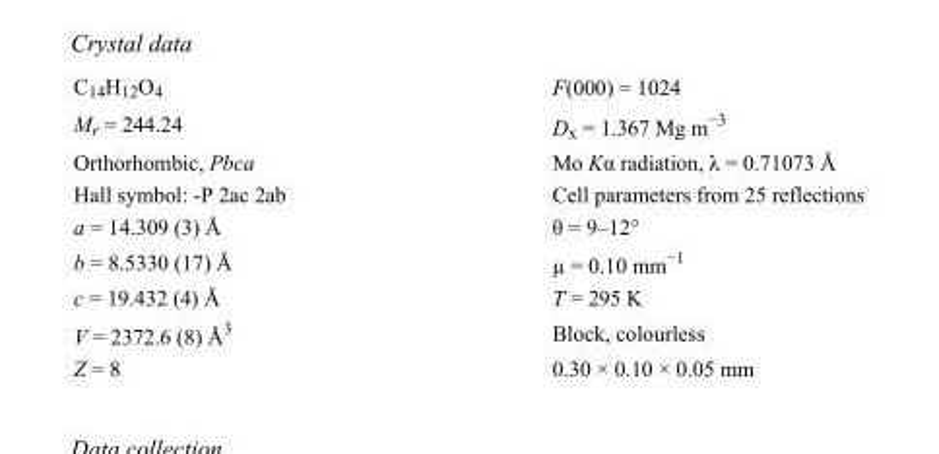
<table><tbody><tr><td>C<sub>14</sub>H<sub>12</sub>O<sub>4</sub></td><td>F(000) = 1024</td></tr><tr><td>M<sub>r</sub> = 244.24</td><td>D<sub>x</sub> = 1.367 Mg m<sup>−3</sup></td></tr><tr><td>Orthorhombic, Pbca</td><td>Mo Kα radiation, λ = 0.71073 Å</td></tr><tr><td>Hall symbol: -P 2ac 2ab</td><td>Cell parameters from 25 reflections</td></tr><tr><td>a = 14.309 (3) Å</td><td>θ = 9–12°</td></tr><tr><td>b = 8.5330 (17) Å</td><td>µ = 0.10 mm<sup>−1</sup></td></tr><tr><td>c = 19.432 (4) Å</td><td>T = 295 K</td></tr><tr><td>V = 2372.6 (8) Å<sup>3</sup></td><td>Block, colourless</td></tr><tr><td>Z = 8</td><td>0.30 × 0.10 × 0.05 mm</td></tr></tbody></table>